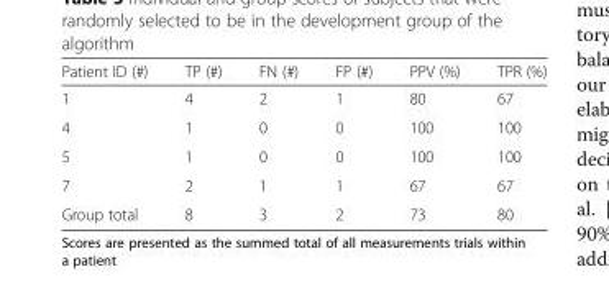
<table><thead><tr><td>Patient ID (#)</td><td>TP (#)</td><td>FN (#)</td><td>FP (#)</td><td>PPV (%)</td><td>TPR (%)</td></tr></thead><tbody><tr><td>1</td><td>4</td><td>2</td><td>1</td><td>80</td><td>67</td></tr><tr><td>4</td><td>1</td><td>0</td><td>0</td><td>100</td><td>100</td></tr><tr><td>5</td><td>1</td><td>0</td><td>0</td><td>100</td><td>100</td></tr><tr><td>7</td><td>2</td><td>1</td><td>1</td><td>67</td><td>67</td></tr><tr><td>Group total</td><td>8</td><td>3</td><td>2</td><td>73</td><td>80</td></tr></tbody></table>